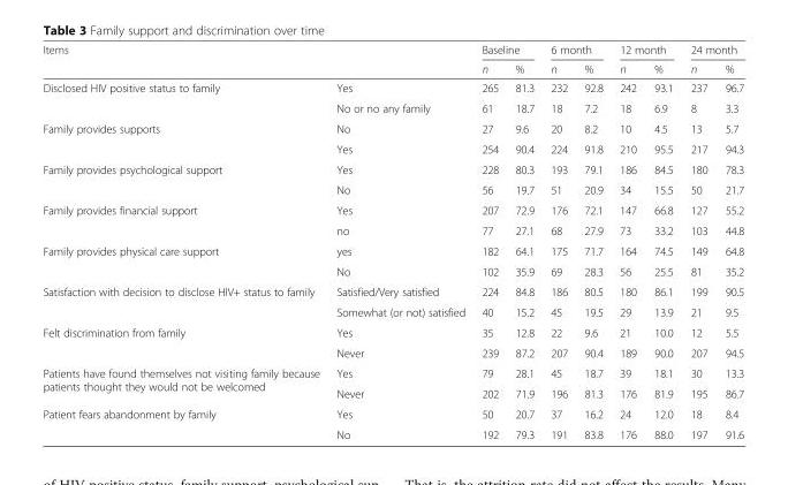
<table><thead><tr><td rowspan="2">Items</td><td rowspan="2"></td><td colspan="2">Baseline</td><td colspan="2">6 month</td><td colspan="2">12 month</td><td colspan="2">24 month</td></tr><tr><td>n</td><td>%</td><td>n</td><td>%</td><td>n</td><td>%</td><td>n</td><td>%</td></tr></thead><tbody><tr><td rowspan="2">Disclosed HIV positive status to family</td><td>Yes</td><td>265</td><td>81.3</td><td>232</td><td>92.8</td><td>242</td><td>93.1</td><td>237</td><td>96.7</td></tr><tr><td>No or no any family</td><td>61</td><td>18.7</td><td>18</td><td>7.2</td><td>18</td><td>6.9</td><td>8</td><td>3.3</td></tr><tr><td rowspan="2">Family provides supports</td><td>No</td><td>27</td><td>9.6</td><td>20</td><td>8.2</td><td>10</td><td>4.5</td><td>13</td><td>5.7</td></tr><tr><td>Yes</td><td>254</td><td>90.4</td><td>224</td><td>91.8</td><td>210</td><td>95.5</td><td>217</td><td>94.3</td></tr><tr><td rowspan="2">Family provides psychological support</td><td>Yes</td><td>228</td><td>80.3</td><td>193</td><td>79.1</td><td>186</td><td>84.5</td><td>180</td><td>78.3</td></tr><tr><td>No</td><td>56</td><td>19.7</td><td>51</td><td>20.9</td><td>34</td><td>15.5</td><td>50</td><td>21.7</td></tr><tr><td rowspan="2">Family provides financial support</td><td>Yes</td><td>207</td><td>72.9</td><td>176</td><td>72.1</td><td>147</td><td>66.8</td><td>127</td><td>55.2</td></tr><tr><td>no</td><td>77</td><td>27.1</td><td>68</td><td>27.9</td><td>73</td><td>33.2</td><td>103</td><td>44.8</td></tr><tr><td rowspan="2">Family provides physical care support</td><td>yes</td><td>182</td><td>64.1</td><td>175</td><td>71.7</td><td>164</td><td>74.5</td><td>149</td><td>64.8</td></tr><tr><td>No</td><td>102</td><td>35.9</td><td>69</td><td>28.3</td><td>56</td><td>25.5</td><td>81</td><td>35.2</td></tr><tr><td rowspan="2">Satisfaction with decision to disclose HIV+ status to family</td><td>Satisfied/Very satisfied</td><td>224</td><td>84.8</td><td>186</td><td>80.5</td><td>180</td><td>86.1</td><td>199</td><td>90.5</td></tr><tr><td>Somewhat (or not) satisfied</td><td>40</td><td>15.2</td><td>45</td><td>19.5</td><td>29</td><td>13.9</td><td>21</td><td>9.5</td></tr><tr><td rowspan="2">Felt discrimination from family</td><td>Yes</td><td>35</td><td>12.8</td><td>22</td><td>9.6</td><td>21</td><td>10.0</td><td>12</td><td>5.5</td></tr><tr><td>Never</td><td>239</td><td>87.2</td><td>207</td><td>90.4</td><td>189</td><td>90.0</td><td>207</td><td>94.5</td></tr><tr><td rowspan="2">Patients have found themselves not visiting family because patients thought they would not be welcomed</td><td>Yes</td><td>79</td><td>28.1</td><td>45</td><td>18.7</td><td>39</td><td>18.1</td><td>30</td><td>13.3</td></tr><tr><td>Never</td><td>202</td><td>71.9</td><td>196</td><td>81.3</td><td>176</td><td>81.9</td><td>195</td><td>86.7</td></tr><tr><td rowspan="2">Patient fears abandonment by family</td><td>Yes</td><td>50</td><td>20.7</td><td>37</td><td>16.2</td><td>24</td><td>12.0</td><td>18</td><td>8.4</td></tr><tr><td>No</td><td>192</td><td>79.3</td><td>191</td><td>83.8</td><td>176</td><td>88.0</td><td>197</td><td>91.6</td></tr></tbody></table>